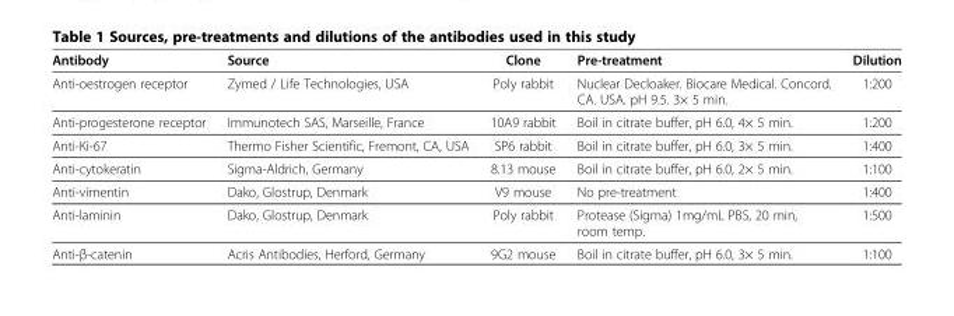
<table><thead><tr><td>Antibody</td><td>Source</td><td>Clone</td><td>Pre-treatment</td><td>Dilution</td></tr></thead><tbody><tr><td>Anti-oestrogen receptor</td><td>Zymed / Life Technologies, USA</td><td>Poly rabbit</td><td>Nuclear Decloaker. Biocare Medical. Concord. CA. USA. pH 9.5. 3× 5 min.</td><td>1:200</td></tr><tr><td>Anti-progesterone receptor</td><td>Immunotech SAS, Marseille, France</td><td>10A9 rabbit</td><td>Boil in citrate buffer, pH 6.0, 4× 5 min.</td><td>1:200</td></tr><tr><td>Anti-Ki-67</td><td>Thermo Fisher Scientific, Fremont, CA, USA</td><td>SP6 rabbit</td><td>Boil in citrate buffer, pH 6.0, 3× 5 min.</td><td>1:400</td></tr><tr><td>Anti-cytokeratin</td><td>Sigma-Aldrich, Germany</td><td>8.13 mouse</td><td>Boil in citrate buffer, pH 6.0, 2× 5 min.</td><td>1:100</td></tr><tr><td>Anti-vimentin</td><td>Dako, Glostrup, Denmark</td><td>V9 mouse</td><td>No pre-treatment</td><td>1:400</td></tr><tr><td>Anti-laminin</td><td>Dako, Glostrup, Denmark</td><td>Poly rabbit</td><td>Protease (Sigma) 1mg/mL PBS, 20 min, room temp.</td><td>1:500</td></tr><tr><td>Anti-β-catenin</td><td>Acris Antibodies, Herford, Germany</td><td>9G2 mouse</td><td>Boil in citrate buffer, pH 6.0, 3× 5 min.</td><td>1:100</td></tr></tbody></table>